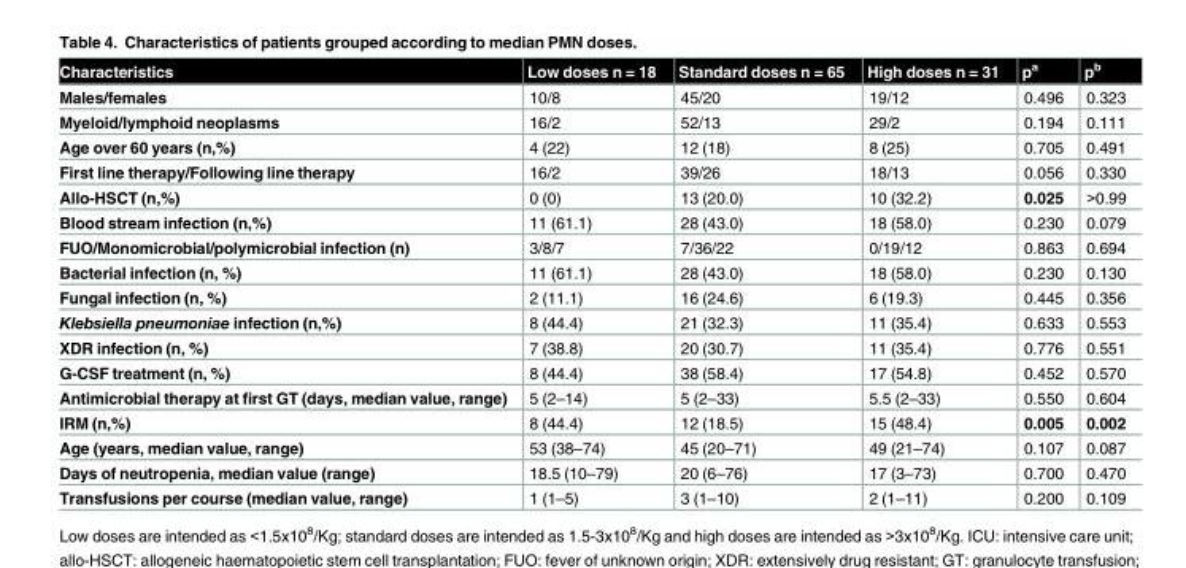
<table><thead><tr><td>Characteristics</td><td>Low doses n = 18</td><td>Standard doses n = 65</td><td>High doses n = 31</td><td>p<sup>a</sup></td><td>p<sup>b</sup></td></tr></thead><tbody><tr><td>Males/females</td><td>10/8</td><td>45/20</td><td>19/12</td><td>0.496</td><td>0.323</td></tr><tr><td>Myeloid/lymphoid neoplasms</td><td>16/2</td><td>52/13</td><td>29/2</td><td>0.194</td><td>0.111</td></tr><tr><td>Age over 60 years (n,%)</td><td>4 (22)</td><td>12 (18)</td><td>8 (25)</td><td>0.705</td><td>0.491</td></tr><tr><td>First line therapy/Following line therapy</td><td>16/2</td><td>39/26</td><td>18/13</td><td>0.056</td><td>0.330</td></tr><tr><td>Allo-HSCT (n,%)</td><td>0 (0)</td><td>13 (20.0)</td><td>10 (32.2)</td><td>0.025</td><td>&gt;0.99</td></tr><tr><td>Blood stream infection (n,%)</td><td>11 (61.1)</td><td>28 (43.0)</td><td>18 (58.0)</td><td>0.230</td><td>0.079</td></tr><tr><td>FUO/Monomicrobial/polymicrobial infection (n)</td><td>3/8/7</td><td>7/36/22</td><td>0/19/12</td><td>0.863</td><td>0.694</td></tr><tr><td>Bacterial infection (n, %)</td><td>11 (61.1)</td><td>28 (43.0)</td><td>18 (58.0)</td><td>0.230</td><td>0.130</td></tr><tr><td>Fungal infection (n, %)</td><td>2 (11.1)</td><td>16 (24.6)</td><td>6 (19.3)</td><td>0.445</td><td>0.356</td></tr><tr><td>Klebsiella pneumoniae infection (n,%)</td><td>8 (44.4)</td><td>21 (32.3)</td><td>11 (35.4)</td><td>0.633</td><td>0.553</td></tr><tr><td>XDR infection (n, %)</td><td>7 (38.8)</td><td>20 (30.7)</td><td>11 (35.4)</td><td>0.776</td><td>0.551</td></tr><tr><td>G-CSF treatment (n, %)</td><td>8 (44.4)</td><td>38 (58.4)</td><td>17 (54.8)</td><td>0.452</td><td>0.570</td></tr><tr><td>Antimicrobial therapy at first GT (days, median value, range)</td><td>5 (2–14)</td><td>5 (2–33)</td><td>5.5 (2–33)</td><td>0.550</td><td>0.604</td></tr><tr><td>IRM (n,%)</td><td>8 (44.4)</td><td>12 (18.5)</td><td>15 (48.4)</td><td>0.005</td><td>0.002</td></tr><tr><td>Age (years, median value, range)</td><td>53 (38–74)</td><td>45 (20–71)</td><td>49 (21–74)</td><td>0.107</td><td>0.087</td></tr><tr><td>Days of neutropenia, median value (range)</td><td>18.5 (10–79)</td><td>20 (6–76)</td><td>17 (3–73)</td><td>0.700</td><td>0.470</td></tr><tr><td>Transfusions per course (median value, range)</td><td>1 (1–5)</td><td>3 (1–10)</td><td>2 (1–11)</td><td>0.200</td><td>0.109</td></tr></tbody></table>